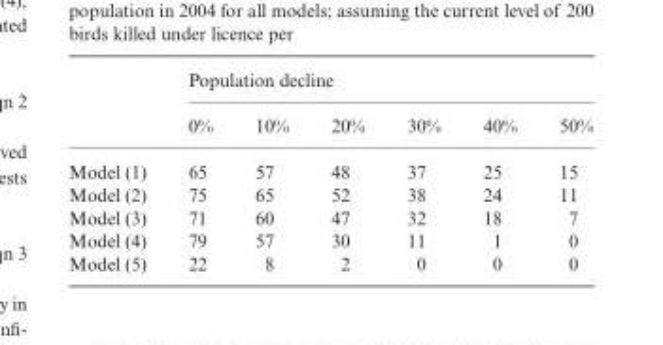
<table><thead><tr><td rowspan="2"></td><td colspan="6">Population decline</td></tr><tr><td>0%</td><td>10%</td><td>20%</td><td>30%</td><td>40%</td><td>50%</td></tr></thead><tbody><tr><td>Model (1)</td><td>65</td><td>57</td><td>48</td><td>37</td><td>25</td><td>15</td></tr><tr><td>Model (2)</td><td>75</td><td>65</td><td>52</td><td>38</td><td>24</td><td>11</td></tr><tr><td>Model (3)</td><td>71</td><td>60</td><td>47</td><td>32</td><td>18</td><td>7</td></tr><tr><td>Model (4)</td><td>79</td><td>57</td><td>30</td><td>11</td><td>1</td><td>0</td></tr><tr><td>Model (5)</td><td>22</td><td>8</td><td>2</td><td>0</td><td>0</td><td>0</td></tr></tbody></table>